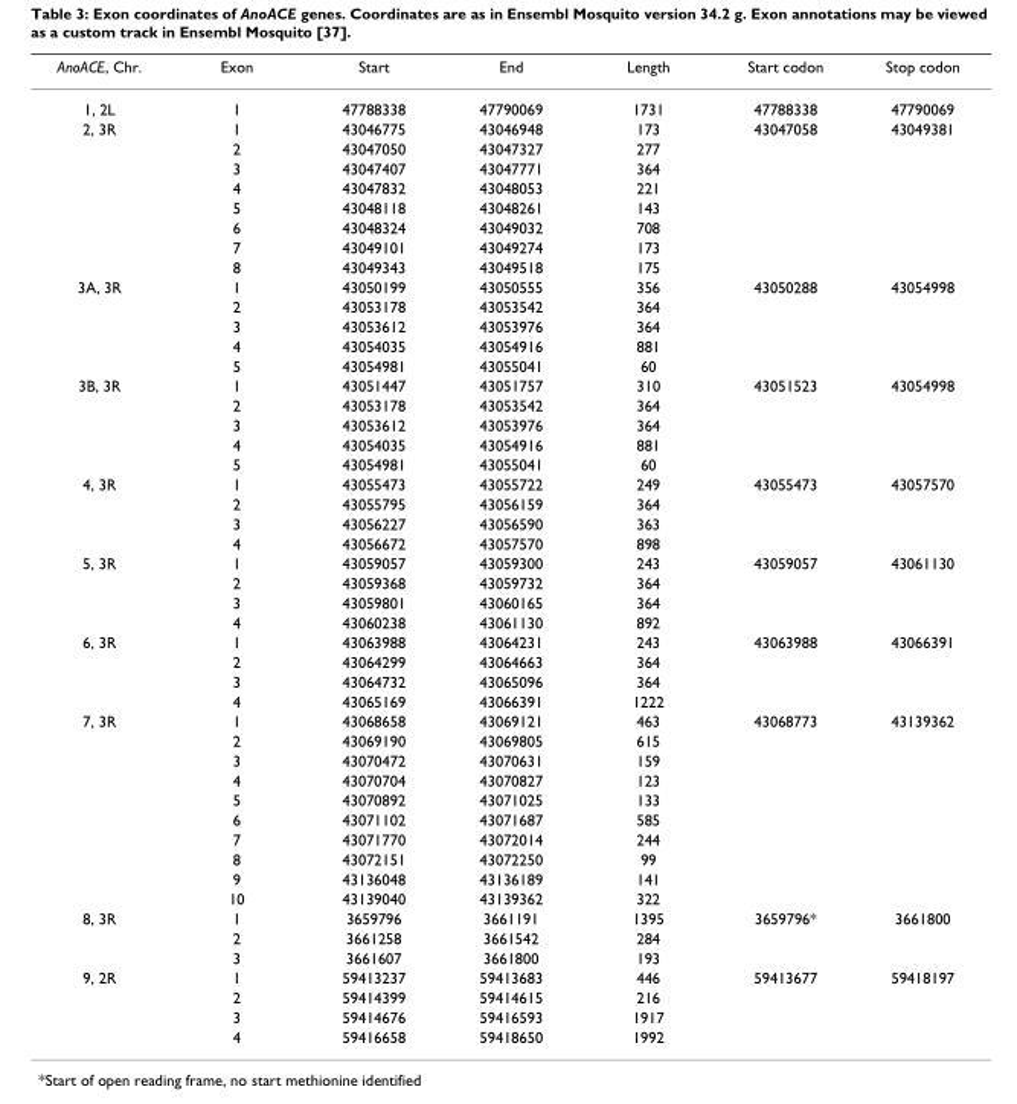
<table><thead><tr><td>AnoACE, Chr.</td><td>Exon</td><td>Start</td><td>End</td><td>Length</td><td>Start codon</td><td>Stop codon</td></tr></thead><tbody><tr><td>1, 2L</td><td>1</td><td>47788338</td><td>47790069</td><td>1731</td><td>47788338</td><td>47790069</td></tr><tr><td rowspan="8">2, 3R</td><td>1</td><td>43046775</td><td>43046948</td><td>173</td><td>43047058</td><td>43049381</td></tr><tr><td>2</td><td>43047050</td><td>43047327</td><td>277</td><td></td><td></td></tr><tr><td>3</td><td>43047407</td><td>43047771</td><td>364</td><td></td><td></td></tr><tr><td>4</td><td>43047832</td><td>43048053</td><td>221</td><td></td><td></td></tr><tr><td>5</td><td>43048118</td><td>43048261</td><td>143</td><td></td><td></td></tr><tr><td>6</td><td>43048324</td><td>43049032</td><td>708</td><td></td><td></td></tr><tr><td>7</td><td>43049101</td><td>43049274</td><td>173</td><td></td><td></td></tr><tr><td>8</td><td>43049343</td><td>43049518</td><td>175</td><td></td><td></td></tr><tr><td rowspan="5">3A, 3R</td><td>1</td><td>43050199</td><td>43050555</td><td>356</td><td>43050288</td><td>43054998</td></tr><tr><td>2</td><td>43053178</td><td>43053542</td><td>364</td><td></td><td></td></tr><tr><td>3</td><td>43053612</td><td>43053976</td><td>364</td><td></td><td></td></tr><tr><td>4</td><td>43054035</td><td>43054916</td><td>881</td><td></td><td></td></tr><tr><td>5</td><td>43054981</td><td>43055041</td><td>60</td><td></td><td></td></tr><tr><td rowspan="5">3B, 3R</td><td>1</td><td>43051447</td><td>43051757</td><td>310</td><td>43051523</td><td>43054998</td></tr><tr><td>2</td><td>43053178</td><td>43053542</td><td>364</td><td></td><td></td></tr><tr><td>3</td><td>43053612</td><td>43053976</td><td>364</td><td></td><td></td></tr><tr><td>4</td><td>43054035</td><td>43054916</td><td>881</td><td></td><td></td></tr><tr><td>5</td><td>43054981</td><td>43055041</td><td>60</td><td></td><td></td></tr><tr><td rowspan="4">4, 3R</td><td>1</td><td>43055473</td><td>43055722</td><td>249</td><td>43055473</td><td>43057570</td></tr><tr><td>2</td><td>43055795</td><td>43056159</td><td>364</td><td></td><td></td></tr><tr><td>3</td><td>43056227</td><td>43056590</td><td>363</td><td></td><td></td></tr><tr><td>4</td><td>43056672</td><td>43057570</td><td>898</td><td></td><td></td></tr><tr><td rowspan="4">5, 3R</td><td>1</td><td>43059057</td><td>43059300</td><td>243</td><td>43059057</td><td>43061130</td></tr><tr><td>2</td><td>43059368</td><td>43059732</td><td>364</td><td></td><td></td></tr><tr><td>3</td><td>43059801</td><td>43060165</td><td>364</td><td></td><td></td></tr><tr><td>4</td><td>43060238</td><td>43061130</td><td>892</td><td></td><td></td></tr><tr><td rowspan="4">6, 3R</td><td>1</td><td>43063988</td><td>43064231</td><td>243</td><td>43063988</td><td>43066391</td></tr><tr><td>2</td><td>43064299</td><td>43064663</td><td>364</td><td></td><td></td></tr><tr><td>3</td><td>43064732</td><td>43065096</td><td>364</td><td></td><td></td></tr><tr><td>4</td><td>43065169</td><td>43066391</td><td>1222</td><td></td><td></td></tr><tr><td rowspan="10">7, 3R</td><td>1</td><td>43068658</td><td>43069121</td><td>463</td><td>43068773</td><td>43139362</td></tr><tr><td>2</td><td>43069190</td><td>43069805</td><td>615</td><td></td><td></td></tr><tr><td>3</td><td>43070472</td><td>43070631</td><td>159</td><td></td><td></td></tr><tr><td>4</td><td>43070704</td><td>43070827</td><td>123</td><td></td><td></td></tr><tr><td>5</td><td>43070892</td><td>43071025</td><td>133</td><td></td><td></td></tr><tr><td>6</td><td>43071102</td><td>43071687</td><td>585</td><td></td><td></td></tr><tr><td>7</td><td>43071770</td><td>43072014</td><td>244</td><td></td><td></td></tr><tr><td>8</td><td>43072151</td><td>43072250</td><td>99</td><td></td><td></td></tr><tr><td>9</td><td>43136048</td><td>43136189</td><td>141</td><td></td><td></td></tr><tr><td>10</td><td>43139040</td><td>43139362</td><td>322</td><td></td><td></td></tr><tr><td rowspan="3">8, 3R</td><td>1</td><td>3659796</td><td>3661191</td><td>1395</td><td>3659796*</td><td>3661800</td></tr><tr><td>2</td><td>3661258</td><td>3661542</td><td>284</td><td></td><td></td></tr><tr><td>3</td><td>3661607</td><td>3661800</td><td>193</td><td></td><td></td></tr><tr><td rowspan="4">9, 2R</td><td>1</td><td>59413237</td><td>59413683</td><td>446</td><td>59413677</td><td>59418197</td></tr><tr><td>2</td><td>59414399</td><td>59414615</td><td>216</td><td></td><td></td></tr><tr><td>3</td><td>59414676</td><td>59416593</td><td>1917</td><td></td><td></td></tr><tr><td>4</td><td>59416658</td><td>59418650</td><td>1992</td><td></td><td></td></tr></tbody></table>